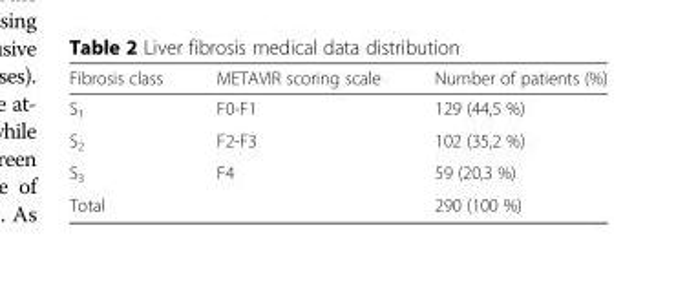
<table><thead><tr><td>Fibrosis class</td><td>METAVIR scoring scale</td><td>Number of patients (%)</td></tr></thead><tbody><tr><td>S<sub>1</sub></td><td>F0-F1</td><td>129 (44,5 %)</td></tr><tr><td>S<sub>2</sub></td><td>F2-F3</td><td>102 (35,2 %)</td></tr><tr><td>S<sub>3</sub></td><td>F4</td><td>59 (20,3 %)</td></tr><tr><td colspan="2">Total</td><td>290 (100 %)</td></tr></tbody></table>